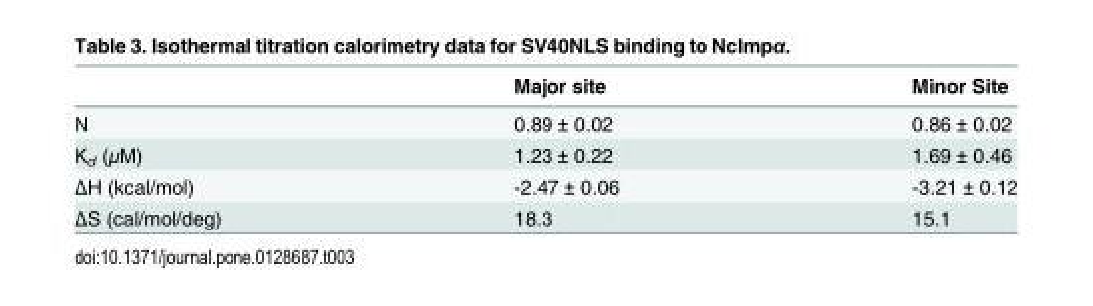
<table><thead><tr><td></td><td>Major site</td><td>Minor Site</td></tr></thead><tbody><tr><td>N</td><td>0.89 ± 0.02</td><td>0.86 ± 0.02</td></tr><tr><td>K<sub>d</sub> (μM)</td><td>1.23 ± 0.22</td><td>1.69 ± 0.46</td></tr><tr><td>ΔH (kcal/mol)</td><td>-2.47 ± 0.06</td><td>-3.21 ± 0.12</td></tr><tr><td>ΔS (cal/mol/deg)</td><td>18.3</td><td>15.1</td></tr></tbody></table>